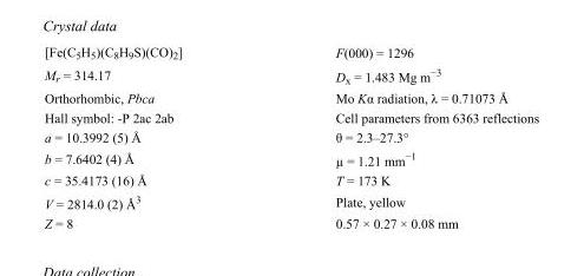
<table><tbody><tr><td>[Fe(C<sub>5</sub>H<sub>5</sub>)(C<sub>8</sub>H<sub>9</sub>S)(CO)<sub>2</sub>]</td><td>F(000) = 1296</td></tr><tr><td>M<sub>r</sub> = 314.17</td><td>D<sub>x</sub> = 1.483 Mg m<sup>−3</sup></td></tr><tr><td>Orthorhombic, Pbca</td><td>Mo Kα radiation, λ = 0.71073 Å</td></tr><tr><td>Hall symbol: -P 2ac 2ab</td><td>Cell parameters from 6363 reflections</td></tr><tr><td>a = 10.3992 (5) Å</td><td>θ = 2.3–27.3°</td></tr><tr><td>b = 7.6402 (4) Å</td><td>µ = 1.21 mm<sup>−1</sup></td></tr><tr><td>c = 35.4173 (16) Å</td><td>T = 173 K</td></tr><tr><td>V = 2814.0 (2) Å<sup>3</sup></td><td>Plate, yellow</td></tr><tr><td>Z = 8</td><td>0.57 × 0.27 × 0.08 mm</td></tr></tbody></table>